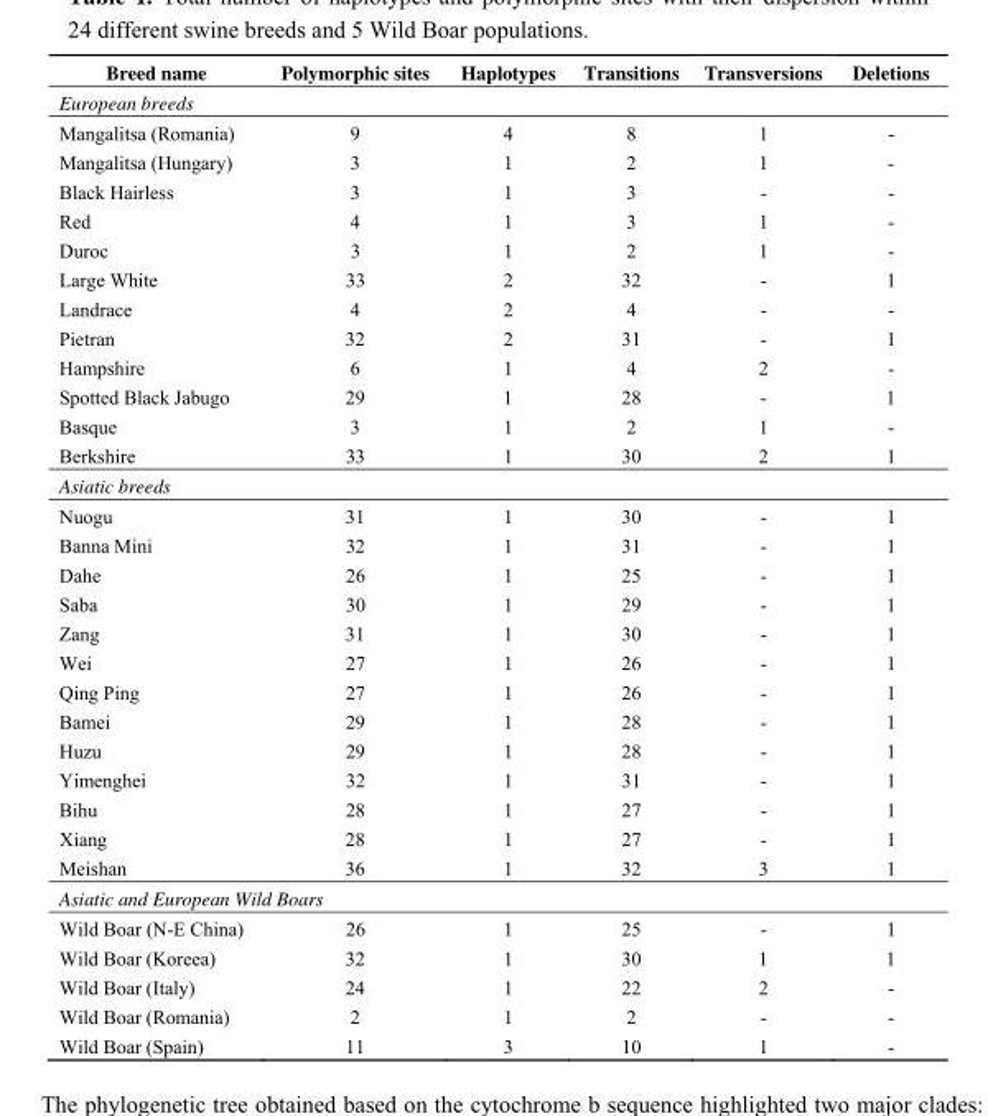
<table><thead><tr><td>Breed name</td><td>Polymorphic sites</td><td>Haplotypes</td><td>Transitions</td><td>Transversions</td><td>Deletions</td></tr></thead><tbody><tr><td colspan="6">European breeds</td></tr><tr><td>Mangalitsa (Romania)</td><td>9</td><td>4</td><td>8</td><td>1</td><td>-</td></tr><tr><td>Mangalitsa (Hungary)</td><td>3</td><td>1</td><td>2</td><td>1</td><td>-</td></tr><tr><td>Black Hairless</td><td>3</td><td>1</td><td>3</td><td>-</td><td>-</td></tr><tr><td>Red</td><td>4</td><td>1</td><td>3</td><td>1</td><td>-</td></tr><tr><td>Duroc</td><td>3</td><td>1</td><td>2</td><td>1</td><td>-</td></tr><tr><td>Large White</td><td>33</td><td>2</td><td>32</td><td>-</td><td>1</td></tr><tr><td>Landrace</td><td>4</td><td>2</td><td>4</td><td>-</td><td>-</td></tr><tr><td>Pietran</td><td>32</td><td>2</td><td>31</td><td>-</td><td>1</td></tr><tr><td>Hampshire</td><td>6</td><td>1</td><td>4</td><td>2</td><td>-</td></tr><tr><td>Spotted Black Jabugo</td><td>29</td><td>1</td><td>28</td><td>-</td><td>1</td></tr><tr><td>Basque</td><td>3</td><td>1</td><td>2</td><td>1</td><td>-</td></tr><tr><td>Berkshire</td><td>33</td><td>1</td><td>30</td><td>2</td><td>1</td></tr><tr><td colspan="6">Asiatic breeds</td></tr><tr><td>Nuogu</td><td>31</td><td>1</td><td>30</td><td>-</td><td>1</td></tr><tr><td>Banna Mini</td><td>32</td><td>1</td><td>31</td><td>-</td><td>1</td></tr><tr><td>Dahe</td><td>26</td><td>1</td><td>25</td><td>-</td><td>1</td></tr><tr><td>Saba</td><td>30</td><td>1</td><td>29</td><td>-</td><td>1</td></tr><tr><td>Zang</td><td>31</td><td>1</td><td>30</td><td>-</td><td>1</td></tr><tr><td>Wei</td><td>27</td><td>1</td><td>26</td><td>-</td><td>1</td></tr><tr><td>Qing Ping</td><td>27</td><td>1</td><td>26</td><td>-</td><td>1</td></tr><tr><td>Bamei</td><td>29</td><td>1</td><td>28</td><td>-</td><td>1</td></tr><tr><td>Huzu</td><td>29</td><td>1</td><td>28</td><td>-</td><td>1</td></tr><tr><td>Yimenghei</td><td>32</td><td>1</td><td>31</td><td>-</td><td>1</td></tr><tr><td>Bihu</td><td>28</td><td>1</td><td>27</td><td>-</td><td>1</td></tr><tr><td>Xiang</td><td>28</td><td>1</td><td>27</td><td>-</td><td>1</td></tr><tr><td>Meishan</td><td>36</td><td>1</td><td>32</td><td>3</td><td>1</td></tr><tr><td colspan="6">Asiatic and European Wild Boars</td></tr><tr><td>Wild Boar (N-E China)</td><td>26</td><td>1</td><td>25</td><td>-</td><td>1</td></tr><tr><td>Wild Boar (Koreea)</td><td>32</td><td>1</td><td>30</td><td>1</td><td>1</td></tr><tr><td>Wild Boar (Italy)</td><td>24</td><td>1</td><td>22</td><td>2</td><td>-</td></tr><tr><td>Wild Boar (Romania)</td><td>2</td><td>1</td><td>2</td><td>-</td><td>-</td></tr><tr><td>Wild Boar (Spain)</td><td>11</td><td>3</td><td>10</td><td>1</td><td>-</td></tr></tbody></table>